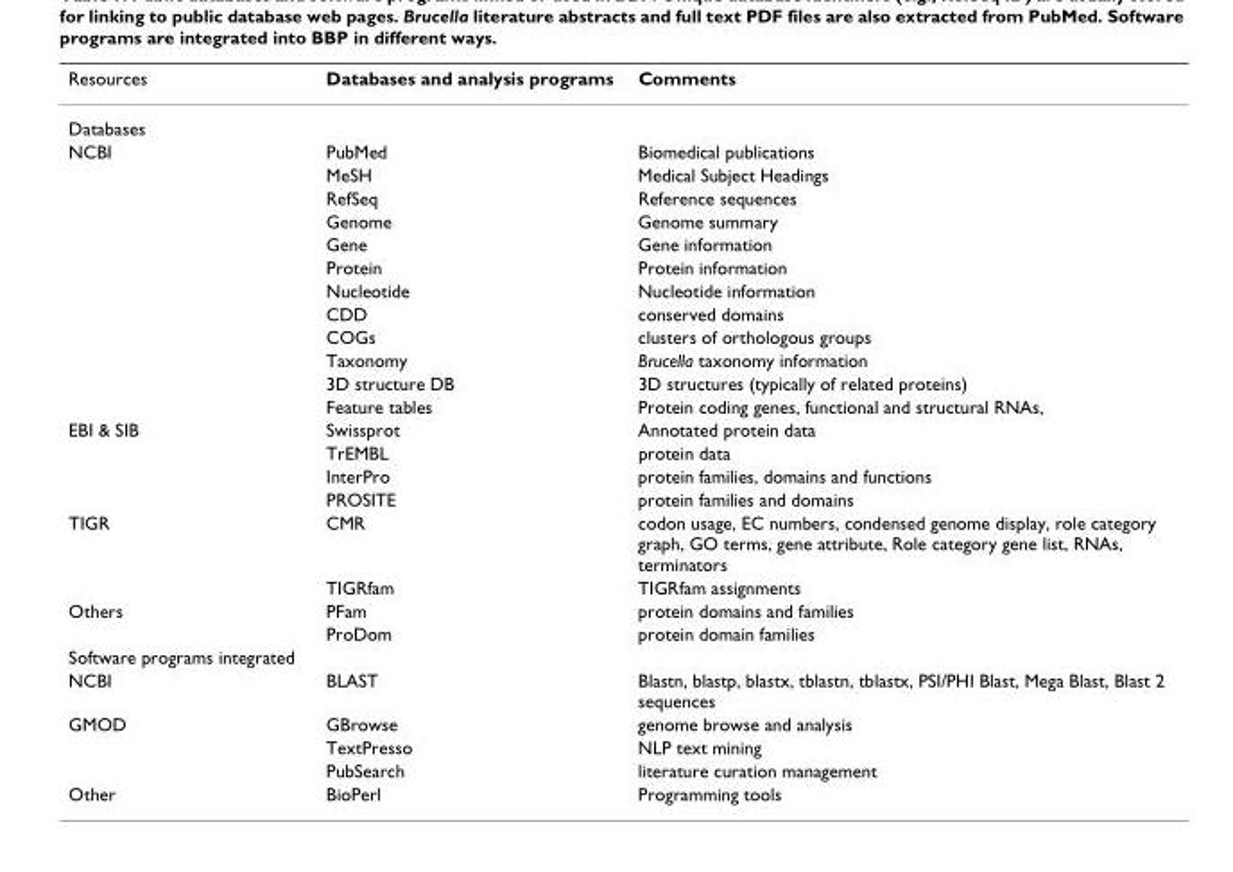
<table><thead><tr><td>Resources</td><td>Databases and analysis programs</td><td>Comments</td></tr></thead><tbody><tr><td colspan="3">Databases</td></tr><tr><td rowspan="12">NCBI</td><td>PubMed</td><td>Biomedical publications</td></tr><tr><td>MeSH</td><td>Medical Subject Headings</td></tr><tr><td>RefSeq</td><td>Reference sequences</td></tr><tr><td>Genome</td><td>Genome summary</td></tr><tr><td>Gene</td><td>Gene information</td></tr><tr><td>Protein</td><td>Protein information</td></tr><tr><td>Nucleotide</td><td>Nucleotide information</td></tr><tr><td>CDD</td><td>conserved domains</td></tr><tr><td>COGs</td><td>clusters of orthologous groups</td></tr><tr><td>Taxonomy</td><td>Brucella taxonomy information</td></tr><tr><td>3D structure DB</td><td>3D structures (typically of related proteins)</td></tr><tr><td>Feature tables</td><td>Protein coding genes, functional and structural RNAs,</td></tr><tr><td rowspan="4">EBI &amp; SIB</td><td>Swissprot</td><td>Annotated protein data</td></tr><tr><td>TrEMBL</td><td>protein data</td></tr><tr><td>InterPro</td><td>protein families, domains and functions</td></tr><tr><td>PROSITE</td><td>protein families and domains</td></tr><tr><td rowspan="2">TIGR</td><td>CMR</td><td>codon usage, EC numbers, condensed genome display, role category graph, GO terms, gene attribute, Role category gene list, RNAs, terminators</td></tr><tr><td>TIGRfam</td><td>TIGRfam assignments</td></tr><tr><td rowspan="2">Others</td><td>PFam</td><td>protein domains and families</td></tr><tr><td>ProDom</td><td>protein domain families</td></tr><tr><td colspan="3">Software programs integrated</td></tr><tr><td>NCBI</td><td>BLAST</td><td>Blastn, blastp, blastx, tblastn, tblastx, PSI/PHI Blast, Mega Blast, Blast 2 sequences</td></tr><tr><td rowspan="3">GMOD</td><td>GBrowse</td><td>genome browse and analysis</td></tr><tr><td>TextPresso</td><td>NLP text mining</td></tr><tr><td>PubSearch</td><td>literature curation management</td></tr><tr><td>Other</td><td>BioPerl</td><td>Programming tools</td></tr></tbody></table>